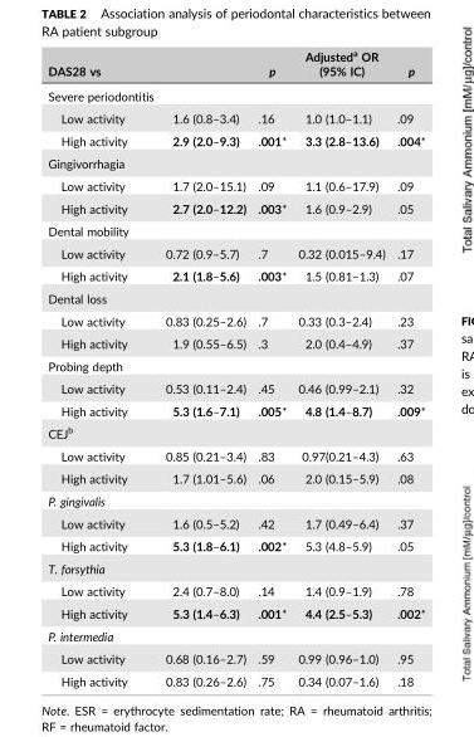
<table><thead><tr><td>DAS28 vs</td><td></td><td>p</td><td>Adjusted<sup>a</sup> OR (95% IC)</td><td>p</td></tr></thead><tbody><tr><td colspan="5">Severe periodontitis</td></tr><tr><td>Low activity</td><td>1.6 (0.8–3.4)</td><td>.16</td><td>1.0 (1.0–1.1)</td><td>.09</td></tr><tr><td>High activity</td><td>2.9 (2.0–9.3)</td><td>.001*</td><td>3.3 (2.8–13.6)</td><td>.004*</td></tr><tr><td colspan="5">Gingivorrhagia</td></tr><tr><td>Low activity</td><td>1.7 (2.0–15.1)</td><td>.09</td><td>1.1 (0.6–17.9)</td><td>.09</td></tr><tr><td>High activity</td><td>2.7 (2.0–12.2)</td><td>.003*</td><td>1.6 (0.9–2.9)</td><td>.05</td></tr><tr><td colspan="5">Dental mobility</td></tr><tr><td>Low activity</td><td>0.72 (0.9–5.7)</td><td>.7</td><td>0.32 (0.015–9.4)</td><td>.17</td></tr><tr><td>High activity</td><td>2.1 (1.8–5.6)</td><td>.003*</td><td>1.5 (0.81–1.3)</td><td>.07</td></tr><tr><td colspan="5">Dental loss</td></tr><tr><td>Low activity</td><td>0.83 (0.25–2.6)</td><td>.7</td><td>0.33 (0.3–2.4)</td><td>.23</td></tr><tr><td>High activity</td><td>1.9 (0.55–6.5)</td><td>.3</td><td>2.0 (0.4–4.9)</td><td>.37</td></tr><tr><td colspan="5">Probing depth</td></tr><tr><td>Low activity</td><td>0.53 (0.11–2.4)</td><td>.45</td><td>0.46 (0.99–2.1)</td><td>.32</td></tr><tr><td>High activity</td><td>5.3 (1.6–7.1)</td><td>.005*</td><td>4.8 (1.4–8.7)</td><td>.009*</td></tr><tr><td colspan="5">CEJb</td></tr><tr><td>Low activity</td><td>0.85 (0.21–3.4)</td><td>.83</td><td>0.97(0.21–4.3)</td><td>.63</td></tr><tr><td>High activity</td><td>1.7 (1.01–5.6)</td><td>.06</td><td>2.0 (0.15–5.9)</td><td>.08</td></tr><tr><td colspan="5">P. gingivalis</td></tr><tr><td>Low activity</td><td>1.6 (0.5–5.2)</td><td>.42</td><td>1.7 (0.49–6.4)</td><td>.37</td></tr><tr><td>High activity</td><td>5.3 (1.8–6.1)</td><td>.002*</td><td>5.3 (4.8–5.9)</td><td>.05</td></tr><tr><td colspan="5">T. forsythia</td></tr><tr><td>Low activity</td><td>2.4 (0.7–8.0)</td><td>.14</td><td>1.4 (0.9–1.9)</td><td>.78</td></tr><tr><td>High activity</td><td>5.3 (1.4–6.3)</td><td>.001*</td><td>4.4 (2.5–5.3)</td><td>.002*</td></tr><tr><td colspan="5">P. intermedia</td></tr><tr><td>Low activity</td><td>0.68 (0.16–2.7)</td><td>.59</td><td>0.99 (0.96–1.0)</td><td>.95</td></tr><tr><td>High activity</td><td>0.83 (0.26–2.6)</td><td>.75</td><td>0.34 (0.07–1.6)</td><td>.18</td></tr></tbody></table>